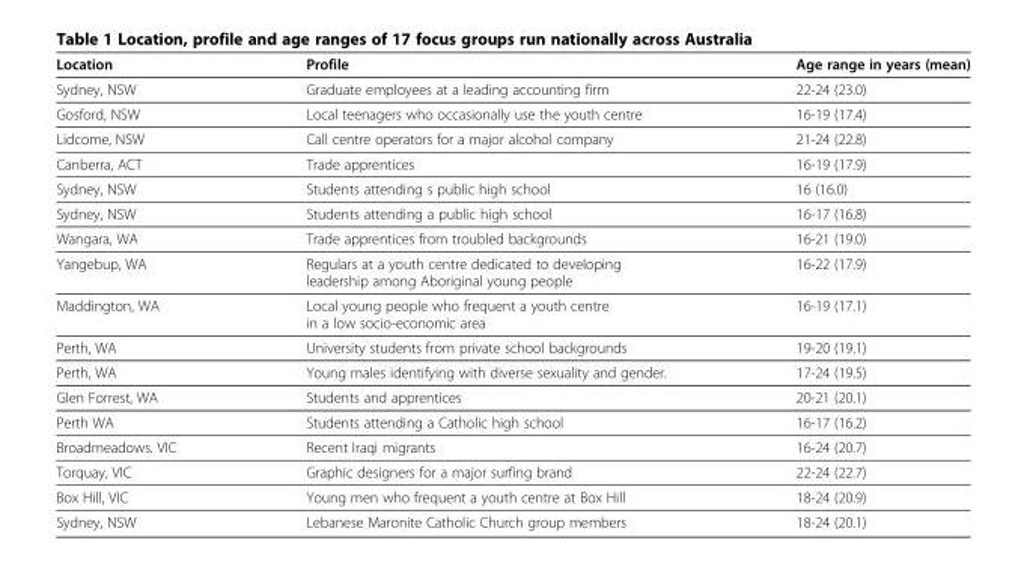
<table><thead><tr><td>Location</td><td>Profile</td><td>Age range in years (mean)</td></tr></thead><tbody><tr><td>Sydney, NSW</td><td>Graduate employees at a leading accounting firm</td><td>22-24 (23.0)</td></tr><tr><td>Gosford, NSW</td><td>Local teenagers who occasionally use the youth centre</td><td>16-19 (17.4)</td></tr><tr><td>Lidcome, NSW</td><td>Call centre operators for a major alcohol company</td><td>21-24 (22.8)</td></tr><tr><td>Canberra, ACT</td><td>Trade apprentices</td><td>16-19 (17.9)</td></tr><tr><td>Sydney, NSW</td><td>Students attending s public high school</td><td>16 (16.0)</td></tr><tr><td>Sydney, NSW</td><td>Students attending a public high school</td><td>16-17 (16.8)</td></tr><tr><td>Wangara, WA</td><td>Trade apprentices from troubled backgrounds</td><td>16-21 (19.0)</td></tr><tr><td>Yangebup, WA</td><td>Regulars at a youth centre dedicated to developing leadership among Aboriginal young people</td><td>16-22 (17.9)</td></tr><tr><td>Maddington, WA</td><td>Local young people who frequent a youth centre in a low socio-economic area</td><td>16-19 (17.1)</td></tr><tr><td>Perth, WA</td><td>University students from private school backgrounds</td><td>19-20 (19.1)</td></tr><tr><td>Perth, WA</td><td>Young males identifying with diverse sexuality and gender.</td><td>17-24 (19.5)</td></tr><tr><td>Glen Forrest, WA</td><td>Students and apprentices</td><td>20-21 (20.1)</td></tr><tr><td>Perth WA</td><td>Students attending a Catholic high school</td><td>16-17 (16.2)</td></tr><tr><td>Broadmeadows. VIC</td><td>Recent Iraqi migrants</td><td>16-24 (20.7)</td></tr><tr><td>Torquay, VIC</td><td>Graphic designers for a major surfing brand</td><td>22-24 (22.7)</td></tr><tr><td>Box Hill, VIC</td><td>Young men who frequent a youth centre at Box Hill</td><td>18-24 (20.9)</td></tr><tr><td>Sydney, NSW</td><td>Lebanese Maronite Catholic Church group members</td><td>18-24 (20.1)</td></tr></tbody></table>